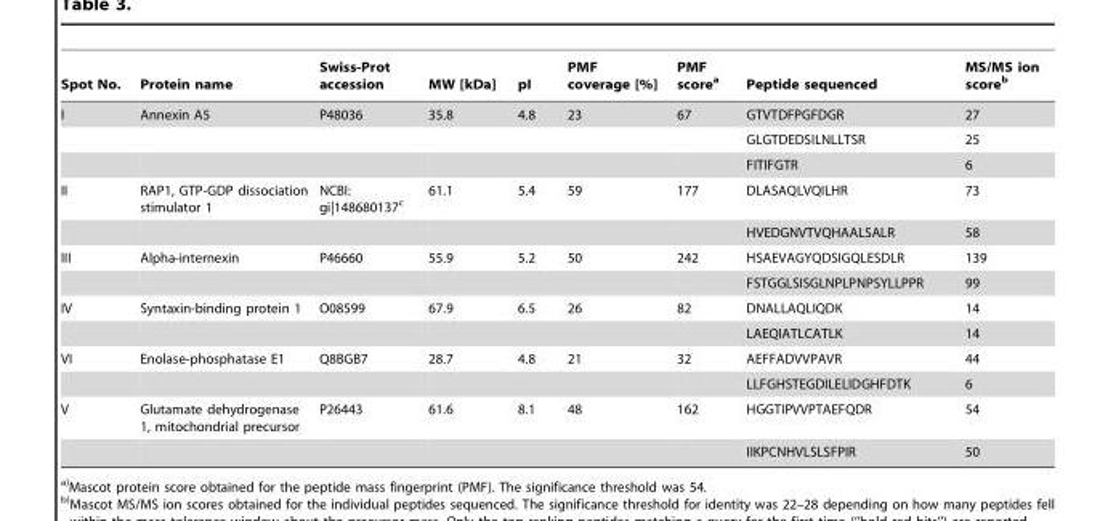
<table><thead><tr><td>Spot No.</td><td>Protein name</td><td>Swiss-Prot accession</td><td>MW [kDa]</td><td>pI</td><td>PMF coverage [%]</td><td>PMF score<sup>a</sup></td><td>Peptide sequenced</td><td>MS/MS ion score<sup>b</sup></td></tr></thead><tbody><tr><td rowspan="3">I</td><td>Annexin A5</td><td>P48036</td><td>35.8</td><td>4.8</td><td>23</td><td>67</td><td>GTVTDFPGFDGR</td><td>27</td></tr><tr><td></td><td></td><td></td><td></td><td></td><td></td><td>GLGTDEDSILNLLTSR</td><td>25</td></tr><tr><td></td><td></td><td></td><td></td><td></td><td></td><td>FITIFGTR</td><td>6</td></tr><tr><td rowspan="2">II</td><td>RAP1, GTP-GDP dissociation stimulator 1</td><td>NCBI: gi|148680137<sup>c</sup></td><td>61.1</td><td>5.4</td><td>59</td><td>177</td><td>DLASAQLVQILHR</td><td>73</td></tr><tr><td></td><td></td><td></td><td></td><td></td><td></td><td>HVEDGNVTVQHAALSALR</td><td>58</td></tr><tr><td rowspan="2">III</td><td>Alpha-internexin</td><td>P46660</td><td>55.9</td><td>5.2</td><td>50</td><td>242</td><td>HSAEVAGYQDSIGQLESDLR</td><td>139</td></tr><tr><td></td><td></td><td></td><td></td><td></td><td></td><td>FSTGGLSISGLNPLPNPSYLLPPR</td><td>99</td></tr><tr><td rowspan="2">IV</td><td>Syntaxin-binding protein 1</td><td>O08599</td><td>67.9</td><td>6.5</td><td>26</td><td>82</td><td>DNALLAQLIQDK</td><td>14</td></tr><tr><td></td><td></td><td></td><td></td><td></td><td></td><td>LAEQIATLCATLK</td><td>14</td></tr><tr><td rowspan="2">VI</td><td>Enolase-phosphatase E1</td><td>Q8BGB7</td><td>28.7</td><td>4.8</td><td>21</td><td>32</td><td>AEFFADVVPAVR</td><td>44</td></tr><tr><td></td><td></td><td></td><td></td><td></td><td></td><td>LLFGHSTEGDILELIDGHFDTK</td><td>6</td></tr><tr><td rowspan="2">V</td><td>Glutamate dehydrogenase 1, mitochondrial precursor</td><td>P26443</td><td>61.6</td><td>8.1</td><td>48</td><td>162</td><td>HGGTIPVVPTAEFQDR</td><td>54</td></tr><tr><td></td><td></td><td></td><td></td><td></td><td></td><td>IIKPCNHVLSLSFPIR</td><td>50</td></tr></tbody></table>